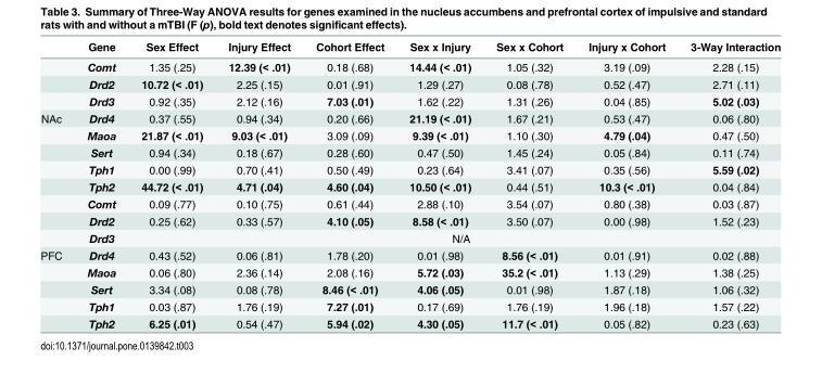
<table><thead><tr><td></td><td>Gene</td><td>Sex Effect</td><td>Injury Effect</td><td>Cohort Effect</td><td>Sex x Injury</td><td>Sex x Cohort</td><td>Injury x Cohort</td><td>3-Way Interaction</td></tr></thead><tbody><tr><td></td><td>Comt</td><td>1.35 (.25)</td><td>12.39 (&lt; .01)</td><td>0.18 (.68)</td><td>14.44 (&lt; .01)</td><td>1.05 (.32)</td><td>3.19 (.09)</td><td>2.28 (.15)</td></tr><tr><td></td><td>Drd2</td><td>10.72 (&lt; .01)</td><td>2.25 (.15)</td><td>0.01 (.91)</td><td>1.29 (.27)</td><td>0.08 (.78)</td><td>0.52 (.47)</td><td>2.71 (.11)</td></tr><tr><td></td><td>Drd3</td><td>0.92 (.35)</td><td>2.12 (.16)</td><td>7.03 (.01)</td><td>1.62 (.22)</td><td>1.31 (.26)</td><td>0.04 (.85)</td><td>5.02 (.03)</td></tr><tr><td rowspan="8">NAc</td><td>Drd4</td><td>0.37 (.55)</td><td>0.94 (.34)</td><td>0.20 (.66)</td><td>21.19 (&lt; .01)</td><td>1.67 (.21)</td><td>0.53 (.47)</td><td>0.06 (.80)</td></tr><tr><td>Maoa</td><td>21.87 (&lt; .01)</td><td>9.03 (&lt; .01)</td><td>3.09 (.09)</td><td>9.39 (&lt; .01)</td><td>1.10 (.30)</td><td>4.79 (.04)</td><td>0.47 (.50)</td></tr><tr><td>Sert</td><td>0.94 (.34)</td><td>0.18 (.67)</td><td>0.28 (.60)</td><td>0.47 (.50)</td><td>1.45 (.24)</td><td>0.05 (.84)</td><td>0.11 (.74)</td></tr><tr><td>Tph1</td><td>0.00 (.99)</td><td>0.70 (.41)</td><td>0.50 (.49)</td><td>0.23 (.64)</td><td>3.41 (.07)</td><td>0.35 (.56)</td><td>5.59 (.02)</td></tr><tr><td>Tph2</td><td>44.72 (&lt; .01)</td><td>4.71 (.04)</td><td>4.60 (.04)</td><td>10.50 (&lt; .01)</td><td>0.44 (.51)</td><td>10.3 (&lt; .01)</td><td>0.04 (.84)</td></tr><tr><td>Comt</td><td>0.09 (.77)</td><td>0.10 (.75)</td><td>0.61 (.44)</td><td>2.88 (.10)</td><td>3.54 (.07)</td><td>0.80 (.38)</td><td>0.03 (.87)</td></tr><tr><td>Drd2</td><td>0.25 (.62)</td><td>0.33 (.57)</td><td>4.10 (.05)</td><td>8.58 (&lt; .01)</td><td>3.50 (.07)</td><td>0.00 (.98)</td><td>1.52 (.23)</td></tr><tr><td>Drd3</td><td colspan="7">N/A</td></tr><tr><td rowspan="5">PFC</td><td>Drd4</td><td>0.43 (.52)</td><td>0.06 (.81)</td><td>1.78 (.20)</td><td>0.01 (.98)</td><td>8.56 (&lt; .01)</td><td>0.01 (.91)</td><td>0.02 (.88)</td></tr><tr><td>Maoa</td><td>0.06 (.80)</td><td>2.36 (.14)</td><td>2.08 (.16)</td><td>5.72 (.03)</td><td>35.2 (&lt; .01)</td><td>1.13 (.29)</td><td>1.38 (.25)</td></tr><tr><td>Sert</td><td>3.34 (.08)</td><td>0.08 (.78)</td><td>8.46 (&lt; .01)</td><td>4.06 (.05)</td><td>0.01 (.98)</td><td>1.87 (.18)</td><td>1.06 (.32)</td></tr><tr><td>Tph1</td><td>0.03 (.87)</td><td>1.76 (.19)</td><td>7.27 (.01)</td><td>0.17 (.69)</td><td>1.76 (.19)</td><td>1.96 (.18)</td><td>1.57 (.22)</td></tr><tr><td>Tph2</td><td>6.25 (.01)</td><td>0.54 (.47)</td><td>5.94 (.02)</td><td>4.30 (.05)</td><td>11.7 (&lt; .01)</td><td>0.05 (.82)</td><td>0.23 (.63)</td></tr></tbody></table>